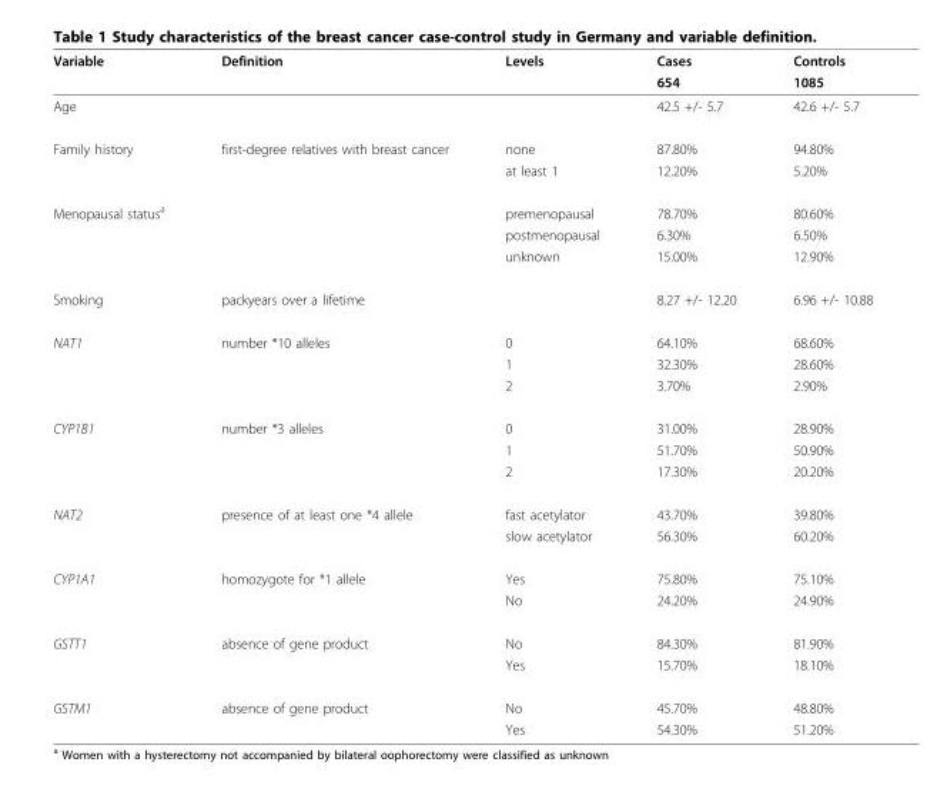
<table><thead><tr><td rowspan="2">Variable</td><td rowspan="2">Definition</td><td rowspan="2">Levels</td><td rowspan="2">Cases 654</td><td rowspan="2">Controls 1085</td></tr><tr></tr></thead><tbody><tr><td>Age</td><td></td><td></td><td>42.5 +/- 5.7</td><td>42.6 +/- 5.7</td></tr><tr><td rowspan="2">Family history</td><td>first-degree relatives with breast cancer</td><td>none</td><td>87.80%</td><td>94.80%</td></tr><tr><td></td><td>at least 1</td><td>12.20%</td><td>5.20%</td></tr><tr><td rowspan="3">Menopausal status<sup>a</sup></td><td></td><td>premenopausal</td><td>78.70%</td><td>80.60%</td></tr><tr><td></td><td>postmenopausal</td><td>6.30%</td><td>6.50%</td></tr><tr><td></td><td>unknown</td><td>15.00%</td><td>12.90%</td></tr><tr><td>Smoking</td><td>packyears over a lifetime</td><td></td><td>8.27 +/- 12.20</td><td>6.96 +/- 10.88</td></tr><tr><td rowspan="3">NAT1</td><td>number *10 alleles</td><td>0</td><td>64.10%</td><td>68.60%</td></tr><tr><td></td><td>1</td><td>32.30%</td><td>28.60%</td></tr><tr><td></td><td>2</td><td>3.70%</td><td>2.90%</td></tr><tr><td rowspan="3">CYP1B1</td><td>number *3 alleles</td><td>0</td><td>31.00%</td><td>28.90%</td></tr><tr><td></td><td>1</td><td>51.70%</td><td>50.90%</td></tr><tr><td></td><td>2</td><td>17.30%</td><td>20.20%</td></tr><tr><td rowspan="2">NAT2</td><td>presence of at least one *4 allele</td><td>fast acetylator</td><td>43.70%</td><td>39.80%</td></tr><tr><td></td><td>slow acetylator</td><td>56.30%</td><td>60.20%</td></tr><tr><td rowspan="2">CYP1A1</td><td>homozygote for *1 allele</td><td>Yes</td><td>75.80%</td><td>75.10%</td></tr><tr><td></td><td>No</td><td>24.20%</td><td>24.90%</td></tr><tr><td rowspan="2">GSTT1</td><td>absence of gene product</td><td>No</td><td>84.30%</td><td>81.90%</td></tr><tr><td></td><td>Yes</td><td>15.70%</td><td>18.10%</td></tr><tr><td rowspan="2">GSTM1</td><td>absence of gene product</td><td>No</td><td>45.70%</td><td>48.80%</td></tr><tr><td></td><td>Yes</td><td>54.30%</td><td>51.20%</td></tr></tbody></table>